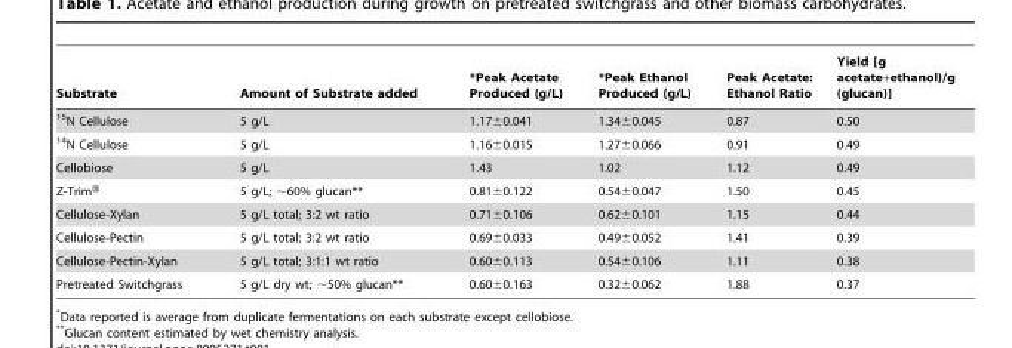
<table><thead><tr><td>Substrate</td><td>Amount of Substrate added</td><td>*Peak Acetate Produced (g/L)</td><td>*Peak Ethanol Produced (g/L)</td><td>Peak Acetate: Ethanol Ratio</td><td>Yield [g acetate+ethanol)/g (glucan)]</td></tr></thead><tbody><tr><td><sup>15</sup>N Cellulose</td><td>5 g/L</td><td>1.17±0.041</td><td>1.34±0.045</td><td>0.87</td><td>0.50</td></tr><tr><td><sup>14</sup>N Cellulose</td><td>5 g/L</td><td>1.16±0.015</td><td>1.27±0.066</td><td>0.91</td><td>0.49</td></tr><tr><td>Cellobiose</td><td>5 g/L</td><td>1.43</td><td>1.02</td><td>1.12</td><td>0.49</td></tr><tr><td>Z-Trim®</td><td>5 g/L; ∼60% glucan**</td><td>0.81±0.122</td><td>0.54±0.047</td><td>1.50</td><td>0.45</td></tr><tr><td>Cellulose-Xylan</td><td>5 g/L total; 3:2 wt ratio</td><td>0.71±0.106</td><td>0.62±0.101</td><td>1.15</td><td>0.44</td></tr><tr><td>Cellulose-Pectin</td><td>5 g/L total; 3:2 wt ratio</td><td>0.69±0.033</td><td>0.49±0.052</td><td>1.41</td><td>0.39</td></tr><tr><td>Cellulose-Pectin-Xylan</td><td>5 g/L total; 3:1:1 wt ratio</td><td>0.60±0.113</td><td>0.54±0.106</td><td>1.11</td><td>0.38</td></tr><tr><td>Pretreated Switchgrass</td><td>5 g/L dry wt; ∼50% glucan**</td><td>0.60±0.163</td><td>0.32±0.062</td><td>1.88</td><td>0.37</td></tr></tbody></table>